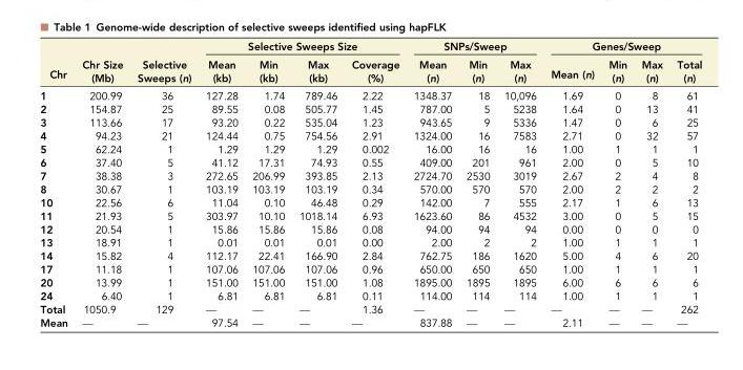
<table><thead><tr><td rowspan="2">Chr</td><td rowspan="2">Chr Size (Mb)</td><td rowspan="2">Selective Sweeps (n)</td><td colspan="4">Selective Sweeps Size</td><td colspan="3">SNPs/Sweep</td><td colspan="4">Genes/Sweep</td></tr><tr><td>Mean (kb)</td><td>Min (kb)</td><td>Max (kb)</td><td>Coverage (%)</td><td>Mean (n)</td><td>Min (n)</td><td>Max (n)</td><td>Mean (n)</td><td>Min (n)</td><td>Max (n)</td><td>Total (n)</td></tr></thead><tbody><tr><td>1</td><td>200.99</td><td>36</td><td>127.28</td><td>1.74</td><td>789.46</td><td>2.22</td><td>1348.37</td><td>18</td><td>10,096</td><td>1.69</td><td>0</td><td>8</td><td>61</td></tr><tr><td>2</td><td>154.87</td><td>25</td><td>89.55</td><td>0.08</td><td>505.77</td><td>1.45</td><td>787.00</td><td>5</td><td>5238</td><td>1.64</td><td>0</td><td>13</td><td>41</td></tr><tr><td>3</td><td>113.66</td><td>17</td><td>93.20</td><td>0.22</td><td>535.04</td><td>1.23</td><td>943.65</td><td>9</td><td>5336</td><td>1.47</td><td>0</td><td>6</td><td>25</td></tr><tr><td>4</td><td>94.23</td><td>21</td><td>124.44</td><td>0.75</td><td>754.56</td><td>2.91</td><td>1324.00</td><td>16</td><td>7583</td><td>2.71</td><td>0</td><td>32</td><td>57</td></tr><tr><td>5</td><td>62.24</td><td>1</td><td>1.29</td><td>1.29</td><td>1.29</td><td>0.002</td><td>16.00</td><td>16</td><td>16</td><td>1.00</td><td>1</td><td>1</td><td>1</td></tr><tr><td>6</td><td>37.40</td><td>5</td><td>41.12</td><td>17.31</td><td>74.93</td><td>0.55</td><td>409.00</td><td>201</td><td>961</td><td>2.00</td><td>0</td><td>5</td><td>10</td></tr><tr><td>7</td><td>38.38</td><td>3</td><td>272.65</td><td>206.99</td><td>393.85</td><td>2.13</td><td>2724.70</td><td>2530</td><td>3019</td><td>2.67</td><td>2</td><td>4</td><td>8</td></tr><tr><td>8</td><td>30.67</td><td>1</td><td>103.19</td><td>103.19</td><td>103.19</td><td>0.34</td><td>570.00</td><td>570</td><td>570</td><td>2.00</td><td>2</td><td>2</td><td>2</td></tr><tr><td>10</td><td>22.56</td><td>6</td><td>11.04</td><td>0.10</td><td>46.48</td><td>0.29</td><td>142.00</td><td>7</td><td>555</td><td>2.17</td><td>1</td><td>6</td><td>13</td></tr><tr><td>11</td><td>21.93</td><td>5</td><td>303.97</td><td>10.10</td><td>1018.14</td><td>6.93</td><td>1623.60</td><td>86</td><td>4532</td><td>3.00</td><td>0</td><td>5</td><td>15</td></tr><tr><td>12</td><td>20.54</td><td>1</td><td>15.86</td><td>15.86</td><td>15.86</td><td>0.08</td><td>94.00</td><td>94</td><td>94</td><td>0.00</td><td>0</td><td>0</td><td>0</td></tr><tr><td>13</td><td>18.91</td><td>1</td><td>0.01</td><td>0.01</td><td>0.01</td><td>0.00</td><td>2.00</td><td>2</td><td>2</td><td>1.00</td><td>1</td><td>1</td><td>1</td></tr><tr><td>14</td><td>15.82</td><td>4</td><td>112.17</td><td>22.41</td><td>166.90</td><td>2.84</td><td>762.75</td><td>186</td><td>1620</td><td>5.00</td><td>4</td><td>6</td><td>20</td></tr><tr><td>17</td><td>11.18</td><td>1</td><td>107.06</td><td>107.06</td><td>107.06</td><td>0.96</td><td>650.00</td><td>650</td><td>650</td><td>1.00</td><td>1</td><td>1</td><td>1</td></tr><tr><td>20</td><td>13.99</td><td>1</td><td>151.00</td><td>151.00</td><td>151.00</td><td>1.08</td><td>1895.00</td><td>1895</td><td>1895</td><td>6.00</td><td>6</td><td>6</td><td>6</td></tr><tr><td>24</td><td>6.40</td><td>1</td><td>6.81</td><td>6.81</td><td>6.81</td><td>0.11</td><td>114.00</td><td>114</td><td>114</td><td>1.00</td><td>1</td><td>1</td><td>1</td></tr><tr><td>Total</td><td>1050.9</td><td>129</td><td>—</td><td>—</td><td>—</td><td>1.36</td><td>—</td><td>—</td><td>—</td><td>—</td><td>—</td><td>—</td><td>262</td></tr><tr><td>Mean</td><td>—</td><td>—</td><td>97.54</td><td>—</td><td>—</td><td>—</td><td>837.88</td><td>—</td><td>—</td><td>2.11</td><td>—</td><td>—</td><td>—</td></tr></tbody></table>